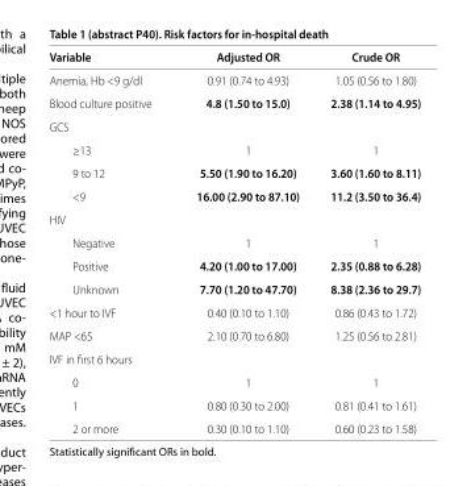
<table><thead><tr><td>Variable</td><td>Adjusted OR</td><td>Crude OR</td></tr></thead><tbody><tr><td>Anemia, Hb &lt;9 g/dl</td><td>0.91 (0.74 to 4.93)</td><td>1.05 (0.56 to 1.80)</td></tr><tr><td>Blood culture positive</td><td>4.8 (1.50 to 15.0)</td><td>2.38 (1.14 to 4.95)</td></tr><tr><td colspan="3">GCS</td></tr><tr><td>≥13</td><td>1</td><td>1</td></tr><tr><td>9 to 12</td><td>5.50 (1.90 to 16.20)</td><td>3.60 (1.60 to 8.11)</td></tr><tr><td>&lt;9</td><td>16.00 (2.90 to 87.10)</td><td>11.2 (3.50 to 36.4)</td></tr><tr><td colspan="3">HIV</td></tr><tr><td>Negative</td><td>1</td><td>1</td></tr><tr><td>Positive</td><td>4.20 (1.00 to 17.00)</td><td>2.35 (0.88 to 6.28)</td></tr><tr><td>Unknown</td><td>7.70 (1.20 to 47.70)</td><td>8.38 (2.36 to 29.7)</td></tr><tr><td>&lt;1 hour to IVF</td><td>0.40 (0.10 to 1.10)</td><td>0.86 (0.43 to 1.72)</td></tr><tr><td>MAP &lt;65</td><td>2.10 (0.70 to 6.80)</td><td>1.25 (0.56 to 2.81)</td></tr><tr><td colspan="3">IVF in fi rst 6 hours</td></tr><tr><td>0</td><td>1</td><td>1</td></tr><tr><td>1</td><td>0.80 (0.30 to 2.00)</td><td>0.81 (0.41 to 1.61)</td></tr><tr><td>2 or more</td><td>0.30 (0.10 to 1.10)</td><td>0.60 (0.23 to 1.58)</td></tr></tbody></table>